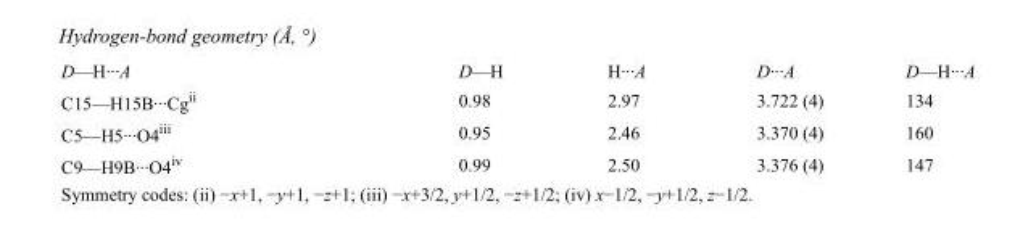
<table><tbody><tr><td>D—H···A</td><td>D—H</td><td>H···A</td><td>D···A</td><td>D—H···A</td></tr><tr><td>C15—H15B···Cg<sup>ii</sup></td><td>0.98</td><td>2.97</td><td>3.722 (4)</td><td>134</td></tr><tr><td>C5—H5···O4<sup>iii</sup></td><td>0.95</td><td>2.46</td><td>3.370 (4)</td><td>160</td></tr><tr><td>C9—H9B···O4<sup>iv</sup></td><td>0.99</td><td>2.50</td><td>3.376 (4)</td><td>147</td></tr></tbody></table>